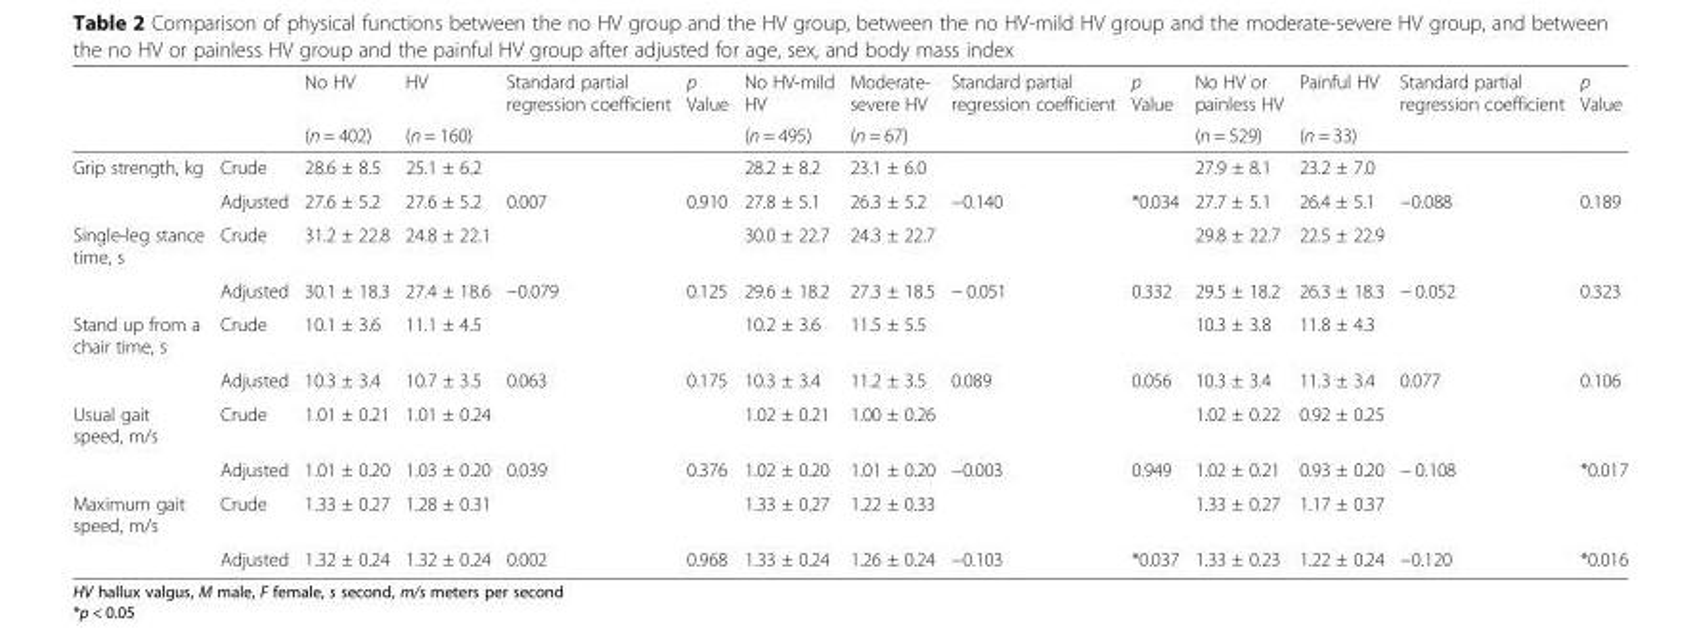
<table><thead><tr><td rowspan="2"></td><td rowspan="2"></td><td rowspan="2">No HV (n = 402)</td><td rowspan="2">HV (n = 160)</td><td rowspan="2">Standard partial regression coefficient</td><td rowspan="2">p Value</td><td rowspan="2">No HV-mild HV (n = 495)</td><td rowspan="2">Moderate- severe HV (n = 67)</td><td rowspan="2">Standard partial regression coefficient</td><td rowspan="2">p Value</td><td rowspan="2">No HV or painless HV (n = 529)</td><td rowspan="2">Painful HV (n = 33)</td><td rowspan="2">Standard partial regression coefficient</td><td rowspan="2">p Value</td></tr><tr></tr></thead><tbody><tr><td rowspan="2">Grip strength, kg</td><td>Crude</td><td>28.6 ± 8.5</td><td>25.1 ± 6.2</td><td></td><td></td><td>28.2 ± 8.2</td><td>23.1 ± 6.0</td><td></td><td></td><td>27.9 ± 8.1</td><td>23.2 ± 7.0</td><td></td><td></td></tr><tr><td>Adjusted</td><td>27.6 ± 5.2</td><td>27.6 ± 5.2</td><td>0.007</td><td>0.910</td><td>27.8 ± 5.1</td><td>26.3 ± 5.2</td><td>−0.140</td><td>*0.034</td><td>27.7 ± 5.1</td><td>26.4 ± 5.1</td><td>−0.088</td><td>0.189</td></tr><tr><td rowspan="2">Single-leg stance time, s</td><td>Crude</td><td>31.2 ± 22.8</td><td>24.8 ± 22.1</td><td></td><td></td><td>30.0 ± 22.7</td><td>24.3 ± 22.7</td><td></td><td></td><td>29.8 ± 22.7</td><td>22.5 ± 22.9</td><td></td><td></td></tr><tr><td>Adjusted</td><td>30.1 ± 18.3</td><td>27.4 ± 18.6</td><td>−0.079</td><td>0.125</td><td>29.6 ± 18.2</td><td>27.3 ± 18.5</td><td>− 0.051</td><td>0.332</td><td>29.5 ± 18.2</td><td>26.3 ± 18.3</td><td>− 0.052</td><td>0.323</td></tr><tr><td rowspan="2">Stand up from a chair time, s</td><td>Crude</td><td>10.1 ± 3.6</td><td>11.1 ± 4.5</td><td></td><td></td><td>10.2 ± 3.6</td><td>11.5 ± 5.5</td><td></td><td></td><td>10.3 ± 3.8</td><td>11.8 ± 4.3</td><td></td><td></td></tr><tr><td>Adjusted</td><td>10.3 ± 3.4</td><td>10.7 ± 3.5</td><td>0.063</td><td>0.175</td><td>10.3 ± 3.4</td><td>11.2 ± 3.5</td><td>0.089</td><td>0.056</td><td>10.3 ± 3.4</td><td>11.3 ± 3.4</td><td>0.077</td><td>0.106</td></tr><tr><td rowspan="2">Usual gait speed, m/s</td><td>Crude</td><td>1.01 ± 0.21</td><td>1.01 ± 0.24</td><td></td><td></td><td>1.02 ± 0.21</td><td>1.00 ± 0.26</td><td></td><td></td><td>1.02 ± 0.22</td><td>0.92 ± 0.25</td><td></td><td></td></tr><tr><td>Adjusted</td><td>1.01 ± 0.20</td><td>1.03 ± 0.20</td><td>0.039</td><td>0.376</td><td>1.02 ± 0.20</td><td>1.01 ± 0.20</td><td>−0.003</td><td>0.949</td><td>1.02 ± 0.21</td><td>0.93 ± 0.20</td><td>− 0.108</td><td>*0.017</td></tr><tr><td rowspan="2">Maximum gait speed, m/s</td><td>Crude</td><td>1.33 ± 0.27</td><td>1.28 ± 0.31</td><td></td><td></td><td>1.33 ± 0.27</td><td>1.22 ± 0.33</td><td></td><td></td><td>1.33 ± 0.27</td><td>1.17 ± 0.37</td><td></td><td></td></tr><tr><td>Adjusted</td><td>1.32 ± 0.24</td><td>1.32 ± 0.24</td><td>0.002</td><td>0.968</td><td>1.33 ± 0.24</td><td>1.26 ± 0.24</td><td>−0.103</td><td>*0.037</td><td>1.33 ± 0.23</td><td>1.22 ± 0.24</td><td>−0.120</td><td>*0.016</td></tr></tbody></table>